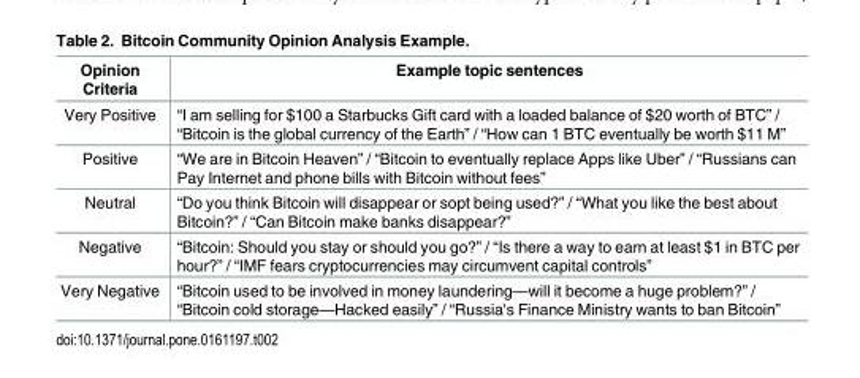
<table><thead><tr><td>Opinion Criteria</td><td>Example topic sentences</td></tr></thead><tbody><tr><td>Very Positive</td><td>“I am selling for $100 a Starbucks Gift card with a loaded balance of $20 worth of BTC” / “Bitcoin is the global currency of the Earth” / “How can 1 BTC eventually be worth $11 M”</td></tr><tr><td>Positive</td><td>“We are in Bitcoin Heaven” / “Bitcoin to eventually replace Apps like Uber” / “Russians can Pay Internet and phone bills with Bitcoin without fees”</td></tr><tr><td>Neutral</td><td>“Do you think Bitcoin will disappear or sopt being used?” / “What you like the best about Bitcoin?” / “Can Bitcoin make banks disappear?”</td></tr><tr><td>Negative</td><td>“Bitcoin: Should you stay or should you go?” / “Is there a way to earn at least $1 in BTC per hour?” / “IMF fears cryptocurrencies may circumvent capital controls”</td></tr><tr><td>Very Negative</td><td>“Bitcoin used to be involved in money laundering—will it become a huge problem?” / “Bitcoin cold storage—Hacked easily” / “Russia&#x27;s Finance Ministry wants to ban Bitcoin”</td></tr></tbody></table>